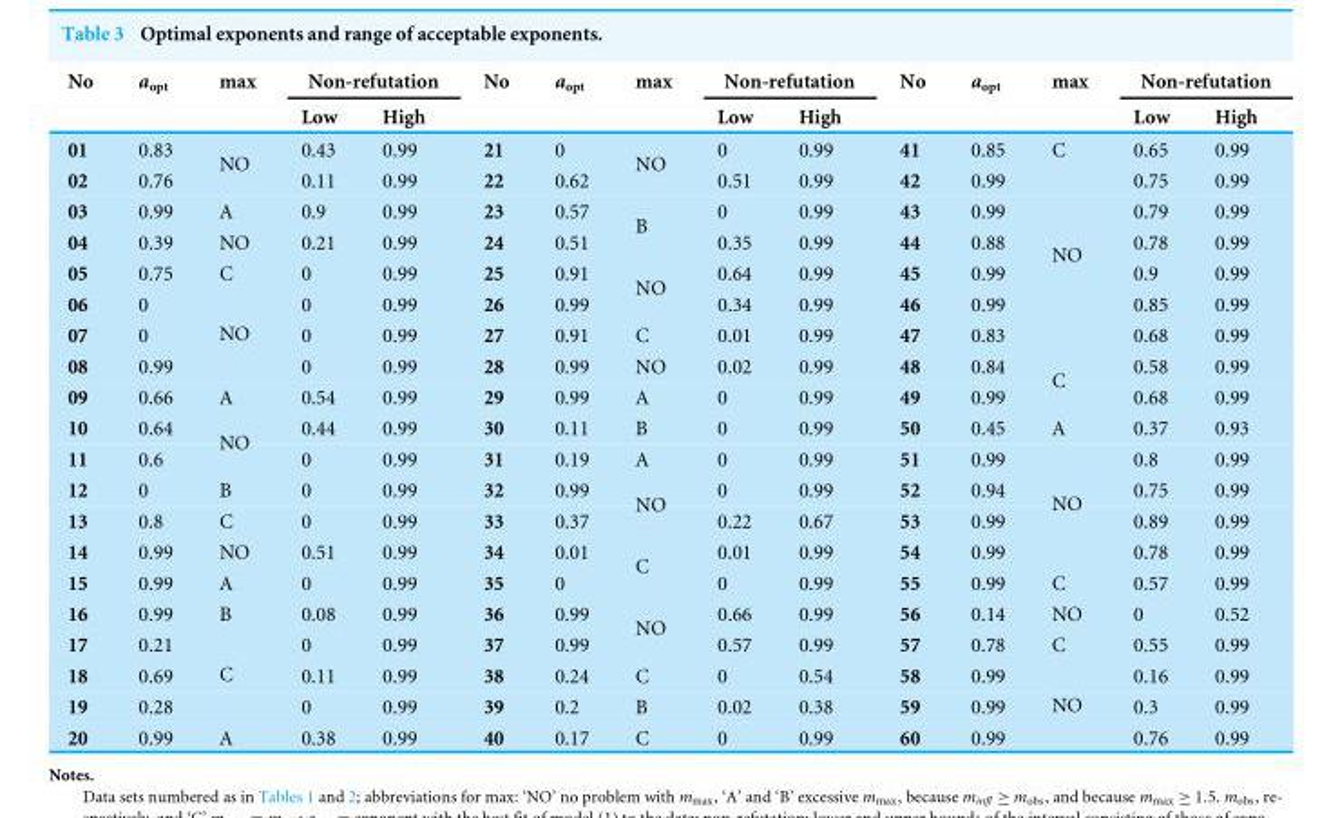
<table><thead><tr><td rowspan="2">No</td><td rowspan="2">a<sub>opt</sub></td><td rowspan="2">max</td><td colspan="2">Non-refutation</td><td rowspan="2">No</td><td rowspan="2">a<sub>opt</sub></td><td rowspan="2">max</td><td colspan="2">Non-refutation</td><td rowspan="2">No</td><td rowspan="2">a<sub>opt</sub></td><td rowspan="2">max</td><td colspan="2">Non-refutation</td></tr><tr><td>Low</td><td>High</td><td>Low</td><td>High</td><td>Low</td><td>High</td></tr></thead><tbody><tr><td>01</td><td>0.83</td><td rowspan="2">NO</td><td>0.43</td><td>0.99</td><td>21</td><td>0</td><td rowspan="2">NO</td><td>0</td><td>0.99</td><td>41</td><td>0.85</td><td>C</td><td>0.65</td><td>0.99</td></tr><tr><td>02</td><td>0.76</td><td>0.11</td><td>0.99</td><td>22</td><td>0.62</td><td>0.51</td><td>0.99</td><td>42</td><td>0.99</td><td rowspan="6">NO</td><td>0.75</td><td>0.99</td></tr><tr><td>03</td><td>0.99</td><td>A</td><td>0.9</td><td>0.99</td><td>23</td><td>0.57</td><td rowspan="2">B</td><td>0</td><td>0.99</td><td>43</td><td>0.99</td><td>0.79</td><td>0.99</td></tr><tr><td>04</td><td>0.39</td><td>NO</td><td>0.21</td><td>0.99</td><td>24</td><td>0.51</td><td>0.35</td><td>0.99</td><td>44</td><td>0.88</td><td>0.78</td><td>0.99</td></tr><tr><td>05</td><td>0.75</td><td>C</td><td>0</td><td>0.99</td><td>25</td><td>0.91</td><td rowspan="2">NO</td><td>0.64</td><td>0.99</td><td>45</td><td>0.99</td><td>0.9</td><td>0.99</td></tr><tr><td>06</td><td>0</td><td rowspan="3">NO</td><td>0</td><td>0.99</td><td>26</td><td>0.99</td><td>0.34</td><td>0.99</td><td>46</td><td>0.99</td><td>0.85</td><td>0.99</td></tr><tr><td>07</td><td>0</td><td>0</td><td>0.99</td><td>27</td><td>0.91</td><td>C</td><td>0.01</td><td>0.99</td><td>47</td><td>0.83</td><td>0.68</td><td>0.99</td></tr><tr><td>08</td><td>0.99</td><td>0</td><td>0.99</td><td>28</td><td>0.99</td><td>NO</td><td>0.02</td><td>0.99</td><td>48</td><td>0.84</td><td rowspan="2">C</td><td>0.58</td><td>0.99</td></tr><tr><td>09</td><td>0.66</td><td>A</td><td>0.54</td><td>0.99</td><td>29</td><td>0.99</td><td>A</td><td>0</td><td>0.99</td><td>49</td><td>0.99</td><td>0.68</td><td>0.99</td></tr><tr><td>10</td><td>0.64</td><td rowspan="2">NO</td><td>0.44</td><td>0.99</td><td>30</td><td>0.11</td><td>B</td><td>0</td><td>0.99</td><td>50</td><td>0.45</td><td>A</td><td>0.37</td><td>0.93</td></tr><tr><td>11</td><td>0.6</td><td>0</td><td>0.99</td><td>31</td><td>0.19</td><td>A</td><td>0</td><td>0.99</td><td>51</td><td>0.99</td><td rowspan="4">NO</td><td>0.8</td><td>0.99</td></tr><tr><td>12</td><td>0</td><td>B</td><td>0</td><td>0.99</td><td>32</td><td>0.99</td><td rowspan="2">NO</td><td>0</td><td>0.99</td><td>52</td><td>0.94</td><td>0.75</td><td>0.99</td></tr><tr><td>13</td><td>0.8</td><td>C</td><td>0</td><td>0.99</td><td>33</td><td>0.37</td><td>0.22</td><td>0.67</td><td>53</td><td>0.99</td><td>0.89</td><td>0.99</td></tr><tr><td>14</td><td>0.99</td><td>NO</td><td>0.51</td><td>0.99</td><td>34</td><td>0.01</td><td rowspan="2">C</td><td>0.01</td><td>0.99</td><td>54</td><td>0.99</td><td>0.78</td><td>0.99</td></tr><tr><td>15</td><td>0.99</td><td>A</td><td>0</td><td>0.99</td><td>35</td><td>0</td><td>0</td><td>0.99</td><td>55</td><td>0.99</td><td>C</td><td>0.57</td><td>0.99</td></tr><tr><td>16</td><td>0.99</td><td>B</td><td>0.08</td><td>0.99</td><td>36</td><td>0.99</td><td rowspan="2">NO</td><td>0.66</td><td>0.99</td><td>56</td><td>0.14</td><td>NO</td><td>0</td><td>0.52</td></tr><tr><td>17</td><td>0.21</td><td rowspan="3">C</td><td>0</td><td>0.99</td><td>37</td><td>0.99</td><td>0.57</td><td>0.99</td><td>57</td><td>0.78</td><td>C</td><td>0.55</td><td>0.99</td></tr><tr><td>18</td><td>0.69</td><td>0.11</td><td>0.99</td><td>38</td><td>0.24</td><td>C</td><td>0</td><td>0.54</td><td>58</td><td>0.99</td><td rowspan="3">NO</td><td>0.16</td><td>0.99</td></tr><tr><td>19</td><td>0.28</td><td>0</td><td>0.99</td><td>39</td><td>0.2</td><td>B</td><td>0.02</td><td>0.38</td><td>59</td><td>0.99</td><td>0.3</td><td>0.99</td></tr><tr><td>20</td><td>0.99</td><td>A</td><td>0.38</td><td>0.99</td><td>40</td><td>0.17</td><td>C</td><td>0</td><td>0.99</td><td>60</td><td>0.99</td><td>0.76</td><td>0.99</td></tr></tbody></table>